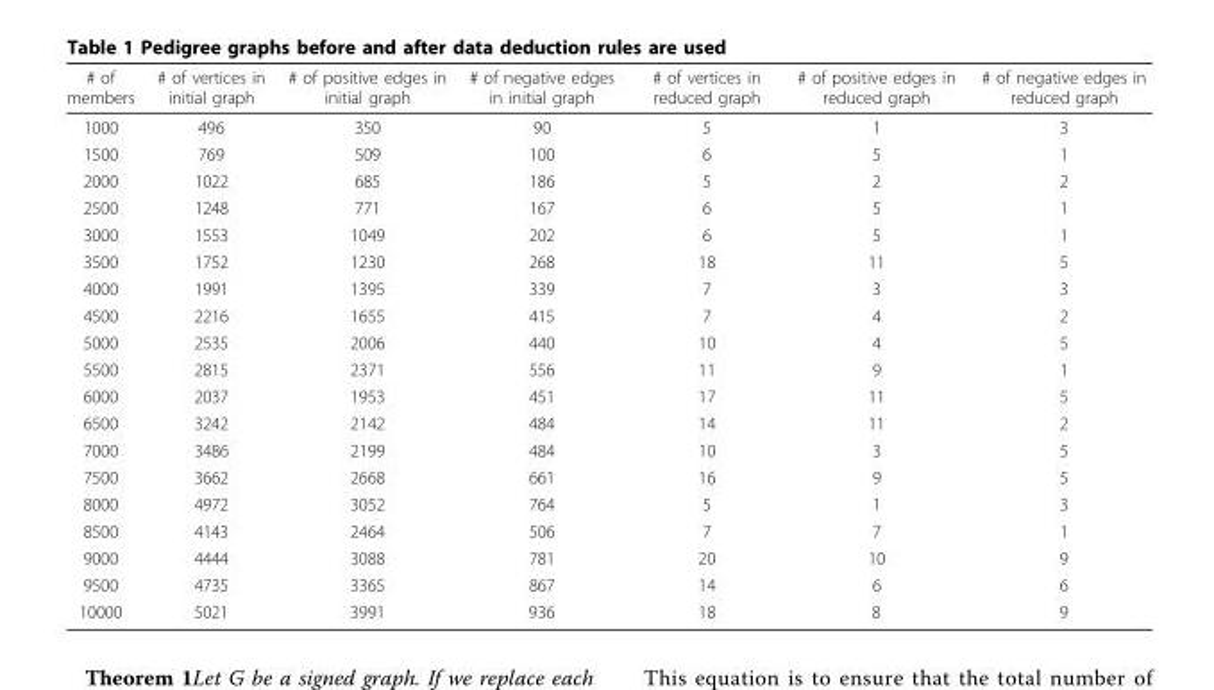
<table><thead><tr><td># of members</td><td># of vertices in initial graph</td><td># of positive edges in initial graph</td><td># of negative edges in initial graph</td><td># of vertices in reduced graph</td><td># of positive edges in reduced graph</td><td># of negative edges in reduced graph</td></tr></thead><tbody><tr><td>1000</td><td>496</td><td>350</td><td>90</td><td>5</td><td>1</td><td>3</td></tr><tr><td>1500</td><td>769</td><td>509</td><td>100</td><td>6</td><td>5</td><td>1</td></tr><tr><td>2000</td><td>1022</td><td>685</td><td>186</td><td>5</td><td>2</td><td>2</td></tr><tr><td>2500</td><td>1248</td><td>771</td><td>167</td><td>6</td><td>5</td><td>1</td></tr><tr><td>3000</td><td>1553</td><td>1049</td><td>202</td><td>6</td><td>5</td><td>1</td></tr><tr><td>3500</td><td>1752</td><td>1230</td><td>268</td><td>18</td><td>11</td><td>5</td></tr><tr><td>4000</td><td>1991</td><td>1395</td><td>339</td><td>7</td><td>3</td><td>3</td></tr><tr><td>4500</td><td>2216</td><td>1655</td><td>415</td><td>7</td><td>4</td><td>2</td></tr><tr><td>5000</td><td>2535</td><td>2006</td><td>440</td><td>10</td><td>4</td><td>5</td></tr><tr><td>5500</td><td>2815</td><td>2371</td><td>556</td><td>11</td><td>9</td><td>1</td></tr><tr><td>6000</td><td>2037</td><td>1953</td><td>451</td><td>17</td><td>11</td><td>5</td></tr><tr><td>6500</td><td>3242</td><td>2142</td><td>484</td><td>14</td><td>11</td><td>2</td></tr><tr><td>7000</td><td>3486</td><td>2199</td><td>484</td><td>10</td><td>3</td><td>5</td></tr><tr><td>7500</td><td>3662</td><td>2668</td><td>661</td><td>16</td><td>9</td><td>5</td></tr><tr><td>8000</td><td>4972</td><td>3052</td><td>764</td><td>5</td><td>1</td><td>3</td></tr><tr><td>8500</td><td>4143</td><td>2464</td><td>506</td><td>7</td><td>7</td><td>1</td></tr><tr><td>9000</td><td>4444</td><td>3088</td><td>781</td><td>20</td><td>10</td><td>9</td></tr><tr><td>9500</td><td>4735</td><td>3365</td><td>867</td><td>14</td><td>6</td><td>6</td></tr><tr><td>10000</td><td>5021</td><td>3991</td><td>936</td><td>18</td><td>8</td><td>9</td></tr></tbody></table>